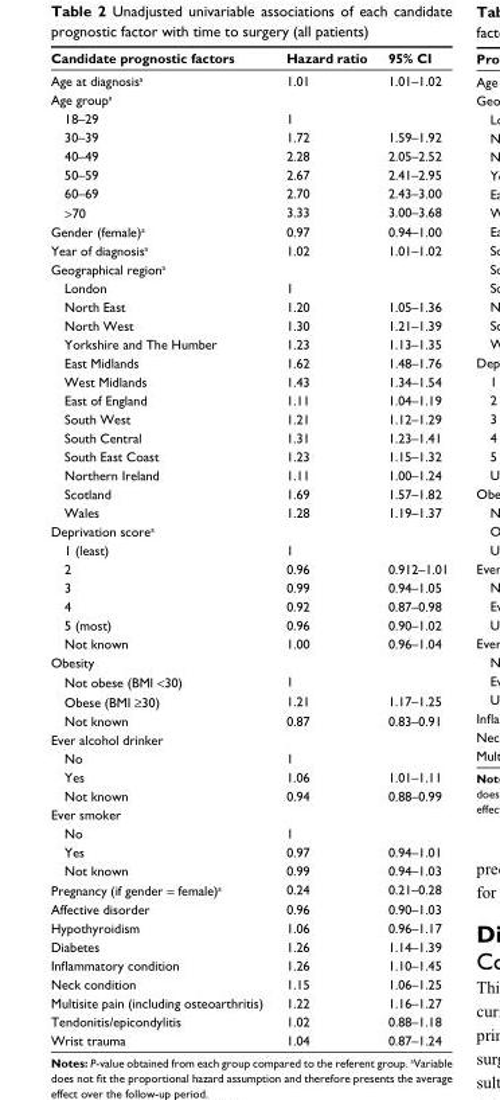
<table><thead><tr><td>Candidate prognostic factors</td><td>Hazard ratio</td><td>95% CI</td></tr></thead><tbody><tr><td>Age at diagnosis<sup>a</sup></td><td>1.01</td><td>1.01–1.02</td></tr><tr><td colspan="3">Age group<sup>a</sup></td></tr><tr><td>18–29</td><td>1</td><td></td></tr><tr><td>30–39</td><td>1.72</td><td>1.59–1.92</td></tr><tr><td>40–49</td><td>2.28</td><td>2.05–2.52</td></tr><tr><td>50–59</td><td>2.67</td><td>2.41–2.95</td></tr><tr><td>60–69</td><td>2.70</td><td>2.43–3.00</td></tr><tr><td>&gt;70</td><td>3.33</td><td>3.00–3.68</td></tr><tr><td>Gender (female)<sup>a</sup></td><td>0.97</td><td>0.94–1.00</td></tr><tr><td>Year of diagnosis<sup>a</sup></td><td>1.02</td><td>1.01–1.02</td></tr><tr><td colspan="3">Geographical region<sup>a</sup></td></tr><tr><td>London</td><td>1</td><td></td></tr><tr><td>North East</td><td>1.20</td><td>1.05–1.36</td></tr><tr><td>North West</td><td>1.30</td><td>1.21–1.39</td></tr><tr><td>Yorkshire and The Humber</td><td>1.23</td><td>1.13–1.35</td></tr><tr><td>East Midlands</td><td>1.62</td><td>1.48–1.76</td></tr><tr><td>West Midlands</td><td>1.43</td><td>1.34–1.54</td></tr><tr><td>East of England</td><td>1.11</td><td>1.04–1.19</td></tr><tr><td>South West</td><td>1.21</td><td>1.12–1.29</td></tr><tr><td>South Central</td><td>1.31</td><td>1.23–1.41</td></tr><tr><td>South East Coast</td><td>1.23</td><td>1.15–1.32</td></tr><tr><td>Northern Ireland</td><td>1.11</td><td>1.00–1.24</td></tr><tr><td>Scotland</td><td>1.69</td><td>1.57–1.82</td></tr><tr><td>Wales</td><td>1.28</td><td>1.19–1.37</td></tr><tr><td colspan="3">Deprivation score<sup>a</sup></td></tr><tr><td>1 (least)</td><td>1</td><td></td></tr><tr><td>2</td><td>0.96</td><td>0.912–1.01</td></tr><tr><td>3</td><td>0.99</td><td>0.94–1.05</td></tr><tr><td>4</td><td>0.92</td><td>0.87–0.98</td></tr><tr><td>5 (most)</td><td>0.96</td><td>0.90–1.02</td></tr><tr><td>Not known</td><td>1.00</td><td>0.96–1.04</td></tr><tr><td colspan="3">Obesity</td></tr><tr><td>Not obese (BMI &lt;30)</td><td>1</td><td></td></tr><tr><td>Obese (BMI ≥30)</td><td>1.21</td><td>1.17–1.25</td></tr><tr><td>Not known</td><td>0.87</td><td>0.83–0.91</td></tr><tr><td colspan="3">Ever alcohol drinker</td></tr><tr><td>No</td><td>1</td><td></td></tr><tr><td>Yes</td><td>1.06</td><td>1.01–1.11</td></tr><tr><td>Not known</td><td>0.94</td><td>0.88–0.99</td></tr><tr><td colspan="3">Ever smoker</td></tr><tr><td>No</td><td>1</td><td></td></tr><tr><td>Yes</td><td>0.97</td><td>0.94–1.01</td></tr><tr><td>Not known</td><td>0.99</td><td>0.94–1.03</td></tr><tr><td>Pregnancy (if gender = female)<sup>a</sup></td><td>0.24</td><td>0.21–0.28</td></tr><tr><td>Affective disorder</td><td>0.96</td><td>0.90–1.03</td></tr><tr><td>Hypothyroidism</td><td>1.06</td><td>0.96–1.17</td></tr><tr><td>Diabetes</td><td>1.26</td><td>1.14–1.39</td></tr><tr><td>Inflammatory condition</td><td>1.26</td><td>1.10–1.45</td></tr><tr><td>Neck condition</td><td>1.15</td><td>1.06–1.25</td></tr><tr><td>Multisite pain (including osteoarthritis)</td><td>1.22</td><td>1.16–1.27</td></tr><tr><td>Tendonitis/epicondylitis</td><td>1.02</td><td>0.88–1.18</td></tr><tr><td>Wrist trauma</td><td>1.04</td><td>0.87–1.24</td></tr></tbody></table>